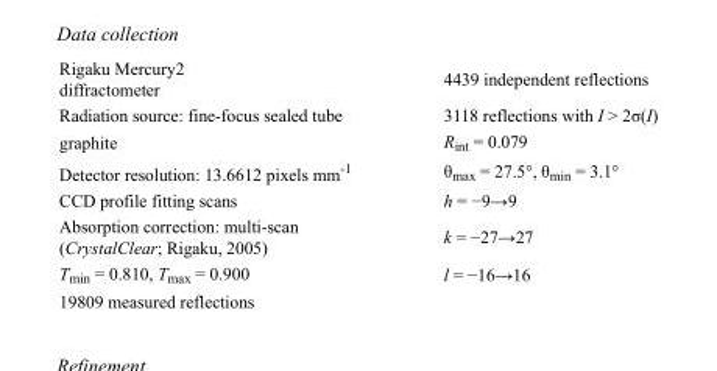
<table><tbody><tr><td>Rigaku Mercury2 diffractometer</td><td>4439 independent reflections</td></tr><tr><td>Radiation source: fine-focus sealed tube</td><td>3118 reflections with I &gt; 2σ(I)</td></tr><tr><td>graphite</td><td>R<sub>int</sub> = 0.079</td></tr><tr><td>Detector resolution: 13.6612 pixels mm<sup>-1</sup></td><td>θ<sub>max</sub> = 27.5°, θ<sub>min</sub> = 3.1°</td></tr><tr><td>CCD profile fitting scans</td><td>h = −9→9</td></tr><tr><td>Absorption correction: multi-scan (CrystalClear; Rigaku, 2005)</td><td>k = −27→27</td></tr><tr><td>T<sub>min</sub> = 0.810, T<sub>max</sub> = 0.900</td><td>l = −16→16</td></tr><tr><td>19809 measured reflections</td><td></td></tr></tbody></table>